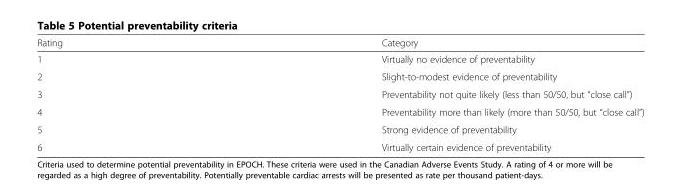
<table><thead><tr><td>Rating</td><td>Category</td></tr></thead><tbody><tr><td>1</td><td>Virtually no evidence of preventability</td></tr><tr><td>2</td><td>Slight-to-modest evidence of preventability</td></tr><tr><td>3</td><td>Preventability not quite likely (less than 50/50, but “close call”)</td></tr><tr><td>4</td><td>Preventability more than likely (more than 50/50, but “close call”)</td></tr><tr><td>5</td><td>Strong evidence of preventability</td></tr><tr><td>6</td><td>Virtually certain evidence of preventability</td></tr></tbody></table>